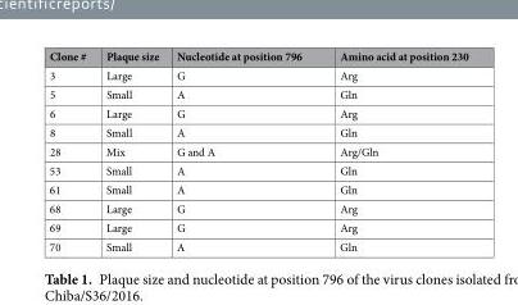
<table><thead><tr><td>Clone #</td><td>Plaque size</td><td>Nucleotide at position 796</td><td>Amino acid at position 230</td></tr></thead><tbody><tr><td>3</td><td>Large</td><td>G</td><td>Arg</td></tr><tr><td>5</td><td>Small</td><td>A</td><td>Gln</td></tr><tr><td>6</td><td>Large</td><td>G</td><td>Arg</td></tr><tr><td>8</td><td>Small</td><td>A</td><td>Gln</td></tr><tr><td>28</td><td>Mix</td><td>G and A</td><td>Arg/Gln</td></tr><tr><td>53</td><td>Small</td><td>A</td><td>Gln</td></tr><tr><td>61</td><td>Small</td><td>A</td><td>Gln</td></tr><tr><td>68</td><td>Large</td><td>G</td><td>Arg</td></tr><tr><td>69</td><td>Large</td><td>G</td><td>Arg</td></tr><tr><td>70</td><td>Small</td><td>A</td><td>Gln</td></tr></tbody></table>